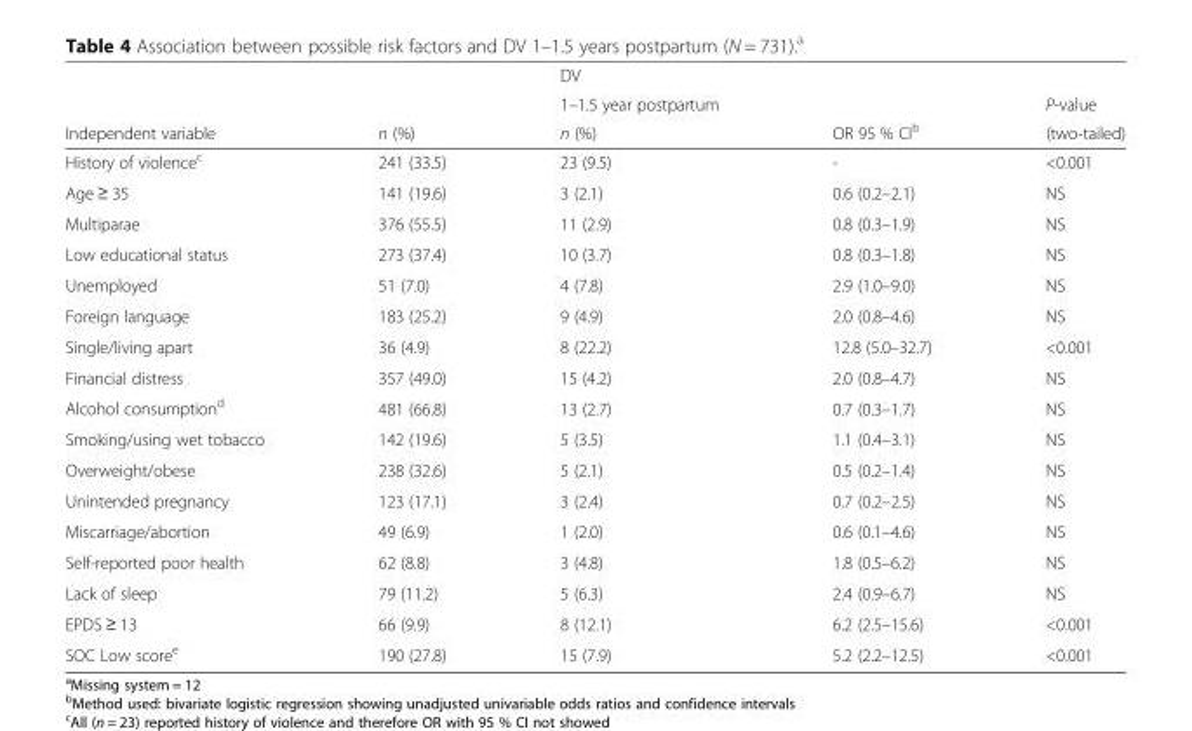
<table><thead><tr><td rowspan="3">Independent variable</td><td rowspan="3">n (%)</td><td rowspan="3">DV 1–1.5 year postpartum n (%)</td><td rowspan="3">OR 95 % CI<sup>b</sup></td><td rowspan="3">P-value (two-tailed)</td></tr><tr></tr><tr></tr></thead><tbody><tr><td>History of violence<sup>c</sup></td><td>241 (33.5)</td><td>23 (9.5)</td><td>-</td><td>&lt;0.001</td></tr><tr><td>Age ≥ 35</td><td>141 (19.6)</td><td>3 (2.1)</td><td>0.6 (0.2–2.1)</td><td>NS</td></tr><tr><td>Multiparae</td><td>376 (55.5)</td><td>11 (2.9)</td><td>0.8 (0.3–1.9)</td><td>NS</td></tr><tr><td>Low educational status</td><td>273 (37.4)</td><td>10 (3.7)</td><td>0.8 (0.3–1.8)</td><td>NS</td></tr><tr><td>Unemployed</td><td>51 (7.0)</td><td>4 (7.8)</td><td>2.9 (1.0–9.0)</td><td>NS</td></tr><tr><td>Foreign language</td><td>183 (25.2)</td><td>9 (4.9)</td><td>2.0 (0.8–4.6)</td><td>NS</td></tr><tr><td>Single/living apart</td><td>36 (4.9)</td><td>8 (22.2)</td><td>12.8 (5.0–32.7)</td><td>&lt;0.001</td></tr><tr><td>Financial distress</td><td>357 (49.0)</td><td>15 (4.2)</td><td>2.0 (0.8–4.7)</td><td>NS</td></tr><tr><td>Alcohol consumption<sup>d</sup></td><td>481 (66.8)</td><td>13 (2.7)</td><td>0.7 (0.3–1.7)</td><td>NS</td></tr><tr><td>Smoking/using wet tobacco</td><td>142 (19.6)</td><td>5 (3.5)</td><td>1.1 (0.4–3.1)</td><td>NS</td></tr><tr><td>Overweight/obese</td><td>238 (32.6)</td><td>5 (2.1)</td><td>0.5 (0.2–1.4)</td><td>NS</td></tr><tr><td>Unintended pregnancy</td><td>123 (17.1)</td><td>3 (2.4)</td><td>0.7 (0.2–2.5)</td><td>NS</td></tr><tr><td>Miscarriage/abortion</td><td>49 (6.9)</td><td>1 (2.0)</td><td>0.6 (0.1–4.6)</td><td>NS</td></tr><tr><td>Self-reported poor health</td><td>62 (8.8)</td><td>3 (4.8)</td><td>1.8 (0.5–6.2)</td><td>NS</td></tr><tr><td>Lack of sleep</td><td>79 (11.2)</td><td>5 (6.3)</td><td>2.4 (0.9–6.7)</td><td>NS</td></tr><tr><td>EPDS ≥ 13</td><td>66 (9.9)</td><td>8 (12.1)</td><td>6.2 (2.5–15.6)</td><td>&lt;0.001</td></tr><tr><td>SOC Low score<sup>e</sup></td><td>190 (27.8)</td><td>15 (7.9)</td><td>5.2 (2.2–12.5)</td><td>&lt;0.001</td></tr></tbody></table>